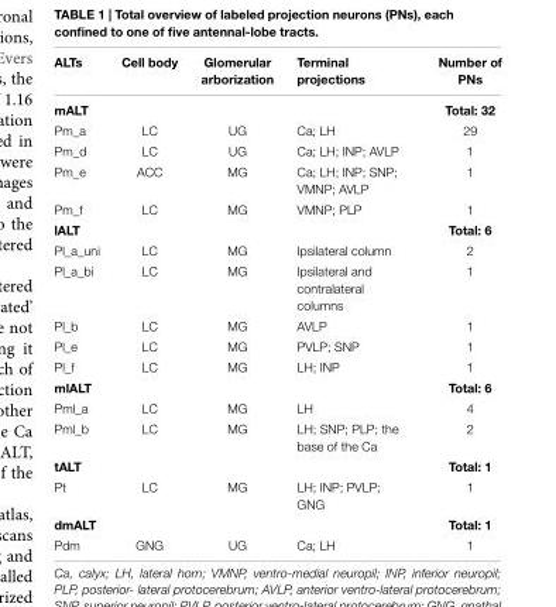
<table><thead><tr><td>ALTs</td><td>Cell body</td><td>Glomerular arborization</td><td>Terminal projections</td><td>Number of PNs</td></tr></thead><tbody><tr><td>mALT</td><td colspan="3"></td><td>Total: 32</td></tr><tr><td>Pm_a</td><td>LC</td><td>UG</td><td>Ca; LH</td><td>29</td></tr><tr><td>Pm_d</td><td>LC</td><td>UG</td><td>Ca; LH; INP; AVLP</td><td>1</td></tr><tr><td>Pm_e</td><td>ACC</td><td>MG</td><td>Ca; LH; INP; SNP; VMNP; AVLP</td><td>1</td></tr><tr><td>Pm_f</td><td>LC</td><td>MG</td><td>VMNP; PLP</td><td>1</td></tr><tr><td>lALT</td><td colspan="3"></td><td>Total: 6</td></tr><tr><td>Pl_a_uni</td><td>LC</td><td>MG</td><td>Ipsilateral column</td><td>2</td></tr><tr><td>Pl_a_bi</td><td>LC</td><td>MG</td><td>Ipsilateral and contralateral columns</td><td>1</td></tr><tr><td>Pl_b</td><td>LC</td><td>MG</td><td>AVLP</td><td>1</td></tr><tr><td>Pl_e</td><td>LC</td><td>MG</td><td>PVLP; SNP</td><td>1</td></tr><tr><td>Pl_f</td><td>LC</td><td>MG</td><td>LH; INP</td><td>1</td></tr><tr><td>mlALT</td><td colspan="3"></td><td>Total: 6</td></tr><tr><td>Pml_a</td><td>LC</td><td>MG</td><td>LH</td><td>4</td></tr><tr><td>Pml_b</td><td>LC</td><td>MG</td><td>LH; SNP; PLP; the base of the Ca</td><td>2</td></tr><tr><td>tALT</td><td></td><td></td><td></td><td>Total: 1</td></tr><tr><td>Pt</td><td>LC</td><td>MG</td><td>LH; INP; PVLP; GNG</td><td>1</td></tr><tr><td>dmALT</td><td colspan="3"></td><td>Total: 1</td></tr><tr><td>Pdm</td><td>GNG</td><td>UG</td><td>Ca; LH</td><td>1</td></tr></tbody></table>